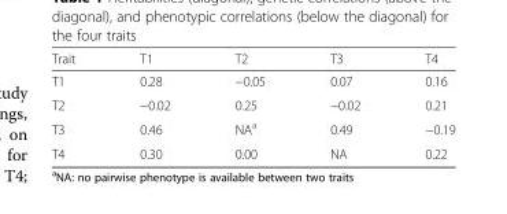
<table><thead><tr><td>Trait</td><td>T1</td><td>T2</td><td>T3</td><td>T4</td></tr></thead><tbody><tr><td>T1</td><td>0.28</td><td>−0.05</td><td>0.07</td><td>0.16</td></tr><tr><td>T2</td><td>−0.02</td><td>0.25</td><td>−0.02</td><td>0.21</td></tr><tr><td>T3</td><td>0.46</td><td>NA<sup>a</sup></td><td>0.49</td><td>−0.19</td></tr><tr><td>T4</td><td>0.30</td><td>0.00</td><td>NA</td><td>0.22</td></tr></tbody></table>